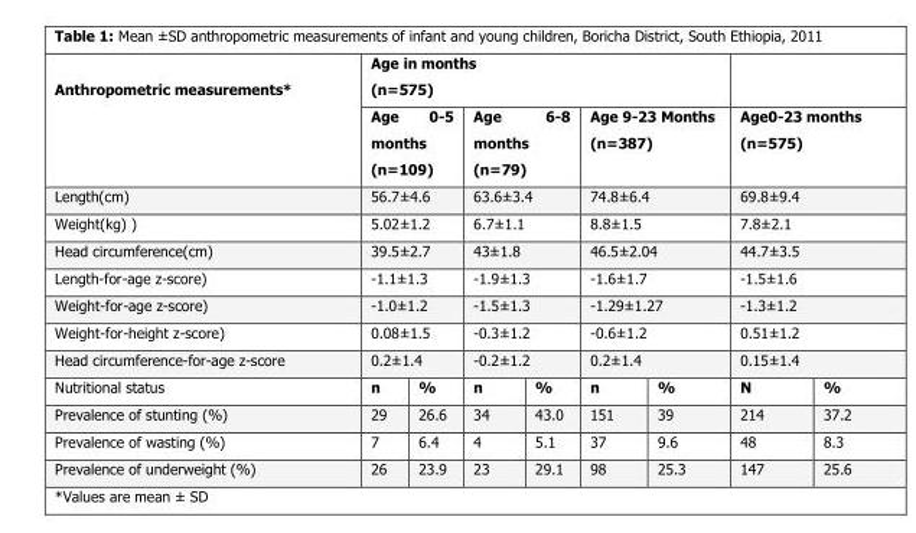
<table><thead><tr><td rowspan="2">Anthropometric measurements*</td><td colspan="6">Age in months (n=575)</td><td></td><td></td></tr><tr><td colspan="2">Age 0-5 months (n=109)</td><td colspan="2">Age 6-8 months (n=79)</td><td colspan="2">Age 9-23 Months (n=387)</td><td colspan="2">Age0-23 months (n=575)</td></tr></thead><tbody><tr><td>Length(cm)</td><td colspan="2">56.7±4.6</td><td colspan="2">63.6±3.4</td><td colspan="2">74.8±6.4</td><td colspan="2">69.8±9.4</td></tr><tr><td>Weight(kg) )</td><td colspan="2">5.02±1.2</td><td colspan="2">6.7±1.1</td><td colspan="2">8.8±1.5</td><td colspan="2">7.8±2.1</td></tr><tr><td>Head circumference(cm)</td><td colspan="2">39.5±2.7</td><td colspan="2">43±1.8</td><td colspan="2">46.5±2.04</td><td colspan="2">44.7±3.5</td></tr><tr><td>Length-for-age z-score)</td><td colspan="2">-1.1±1.3</td><td colspan="2">-1.9±1.3</td><td colspan="2">-1.6±1.7</td><td colspan="2">-1.5±1.6</td></tr><tr><td>Weight-for-age z-score)</td><td colspan="2">-1.0±1.2</td><td colspan="2">-1.5±1.3</td><td colspan="2">-1.29±1.27</td><td colspan="2">-1.3±1.2</td></tr><tr><td>Weight-for-height z-score)</td><td colspan="2">0.08±1.5</td><td colspan="2">-0.3±1.2</td><td colspan="2">-0.6±1.2</td><td colspan="2">0.51±1.2</td></tr><tr><td>Head circumference-for-age z-score</td><td colspan="2">0.2±1.4</td><td colspan="2">-0.2±1.2</td><td colspan="2">0.2±1.4</td><td colspan="2">0.15±1.4</td></tr><tr><td>Nutritional status</td><td>n</td><td>%</td><td>n</td><td>%</td><td>n</td><td>%</td><td>N</td><td>%</td></tr><tr><td>Prevalence of stunting (%)</td><td>29</td><td>26.6</td><td>34</td><td>43.0</td><td>151</td><td>39</td><td>214</td><td>37.2</td></tr><tr><td>Prevalence of wasting (%)</td><td>7</td><td>6.4</td><td>4</td><td>5.1</td><td>37</td><td>9.6</td><td>48</td><td>8.3</td></tr><tr><td>Prevalence of underweight (%)</td><td>26</td><td>23.9</td><td>23</td><td>29.1</td><td>98</td><td>25.3</td><td>147</td><td>25.6</td></tr></tbody></table>